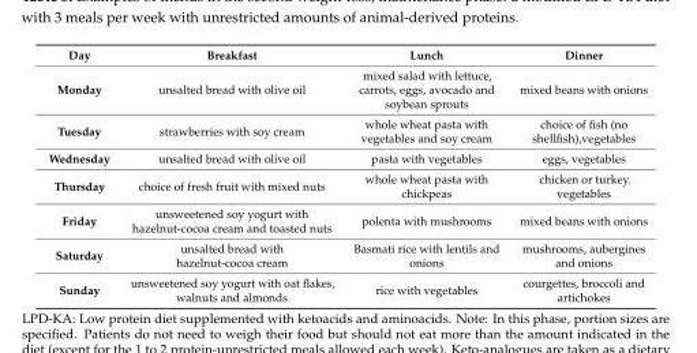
<table><thead><tr><td>Day</td><td>Breakfast</td><td>Lunch</td><td>Dinner</td></tr></thead><tbody><tr><td>Monday</td><td>unsalted bread with olive oil</td><td>mixed salad with lettuce, carrots, eggs, avocado and soybean sprouts</td><td>mixed beans with onions</td></tr><tr><td>Tuesday</td><td>strawberries with soy cream</td><td>whole wheat pasta with vegetables and soy cream</td><td>choice of fish (no shellfish),vegetables</td></tr><tr><td>Wednesday</td><td>unsalted bread with olive oil</td><td>pasta with vegetables</td><td>eggs, vegetables</td></tr><tr><td>Thursday</td><td>choice of fresh fruit with mixed nuts</td><td>whole wheat pasta with chickpeas</td><td>chicken or turkey. vegetables</td></tr><tr><td>Friday</td><td>unsweetened soy yogurt with hazelnut-cocoa cream and toasted nuts</td><td>polenta with mushrooms</td><td>mixed beans with onions</td></tr><tr><td>Saturday</td><td>unsalted bread with hazelnut-cocoa cream</td><td>Basmati rice with lentils and onions</td><td>mushrooms, aubergines and onions</td></tr><tr><td>Sunday</td><td>unsweetened soy yogurt with oat flakes, walnuts and almonds</td><td>rice with vegetables</td><td>courgettes, broccoli and artichokes</td></tr></tbody></table>